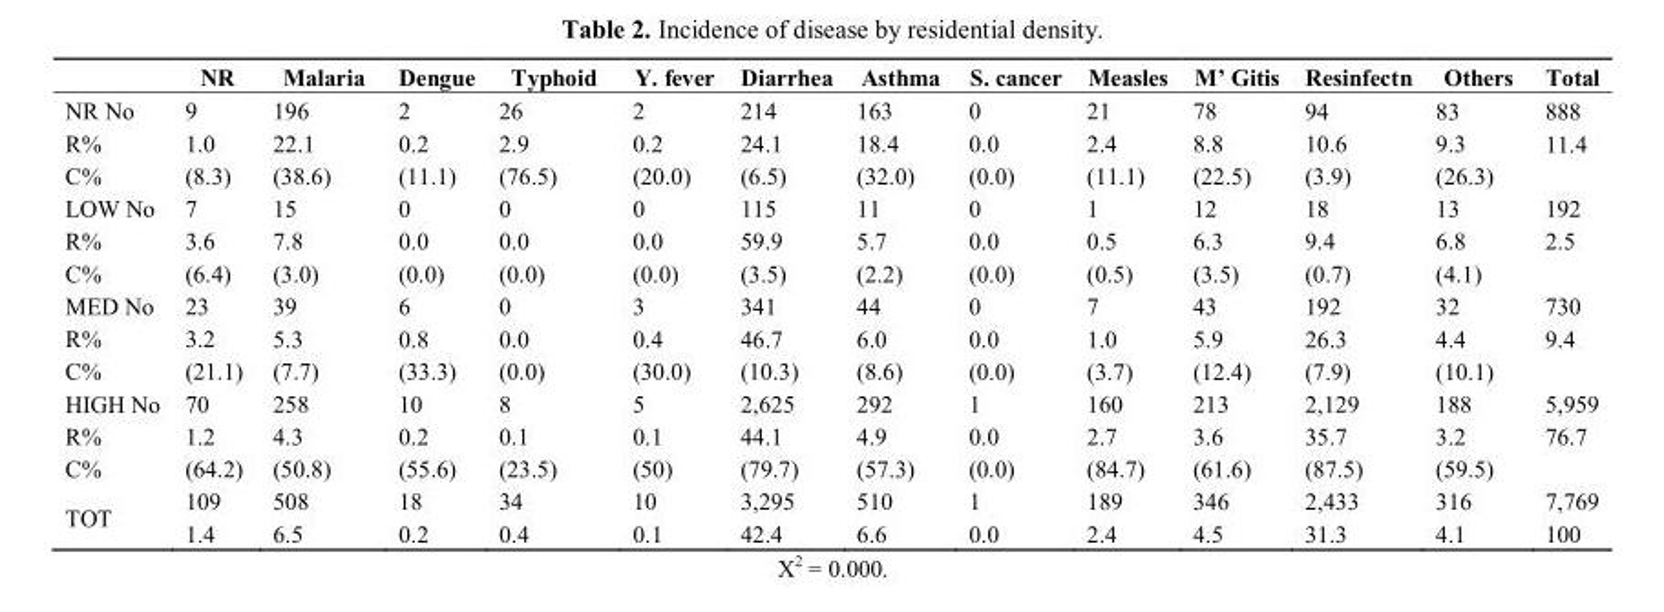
<table><thead><tr><td></td><td>NR</td><td>Malaria</td><td>Dengue</td><td>Typhoid</td><td>Y. fever</td><td>Diarrhea</td><td>Asthma</td><td>S. cancer</td><td>Measles</td><td>M’ Gitis</td><td>Resinfectn</td><td>Others</td><td>Total</td></tr></thead><tbody><tr><td>NR No</td><td>9</td><td>196</td><td>2</td><td>26</td><td>2</td><td>214</td><td>163</td><td>0</td><td>21</td><td>78</td><td>94</td><td>83</td><td>888</td></tr><tr><td>R%</td><td>1.0</td><td>22.1</td><td>0.2</td><td>2.9</td><td>0.2</td><td>24.1</td><td>18.4</td><td>0.0</td><td>2.4</td><td>8.8</td><td>10.6</td><td>9.3</td><td>11.4</td></tr><tr><td>C%</td><td>(8.3)</td><td>(38.6)</td><td>(11.1)</td><td>(76.5)</td><td>(20.0)</td><td>(6.5)</td><td>(32.0)</td><td>(0.0)</td><td>(11.1)</td><td>(22.5)</td><td>(3.9)</td><td>(26.3)</td><td></td></tr><tr><td>LOW No</td><td>7</td><td>15</td><td>0</td><td>0</td><td>0</td><td>115</td><td>11</td><td>0</td><td>1</td><td>12</td><td>18</td><td>13</td><td>192</td></tr><tr><td>R%</td><td>3.6</td><td>7.8</td><td>0.0</td><td>0.0</td><td>0.0</td><td>59.9</td><td>5.7</td><td>0.0</td><td>0.5</td><td>6.3</td><td>9.4</td><td>6.8</td><td>2.5</td></tr><tr><td>C%</td><td>(6.4)</td><td>(3.0)</td><td>(0.0)</td><td>(0.0)</td><td>(0.0)</td><td>(3.5)</td><td>(2.2)</td><td>(0.0)</td><td>(0.5)</td><td>(3.5)</td><td>(0.7)</td><td>(4.1)</td><td></td></tr><tr><td>MED No</td><td>23</td><td>39</td><td>6</td><td>0</td><td>3</td><td>341</td><td>44</td><td>0</td><td>7</td><td>43</td><td>192</td><td>32</td><td>730</td></tr><tr><td>R%</td><td>3.2</td><td>5.3</td><td>0.8</td><td>0.0</td><td>0.4</td><td>46.7</td><td>6.0</td><td>0.0</td><td>1.0</td><td>5.9</td><td>26.3</td><td>4.4</td><td>9.4</td></tr><tr><td>C%</td><td>(21.1)</td><td>(7.7)</td><td>(33.3)</td><td>(0.0)</td><td>(30.0)</td><td>(10.3)</td><td>(8.6)</td><td>(0.0)</td><td>(3.7)</td><td>(12.4)</td><td>(7.9)</td><td>(10.1)</td><td></td></tr><tr><td>HIGH No</td><td>70</td><td>258</td><td>10</td><td>8</td><td>5</td><td>2,625</td><td>292</td><td>1</td><td>160</td><td>213</td><td>2,129</td><td>188</td><td>5,959</td></tr><tr><td>R%</td><td>1.2</td><td>4.3</td><td>0.2</td><td>0.1</td><td>0.1</td><td>44.1</td><td>4.9</td><td>0.0</td><td>2.7</td><td>3.6</td><td>35.7</td><td>3.2</td><td>76.7</td></tr><tr><td>C%</td><td>(64.2)</td><td>(50.8)</td><td>(55.6)</td><td>(23.5)</td><td>(50)</td><td>(79.7)</td><td>(57.3)</td><td>(0.0)</td><td>(84.7)</td><td>(61.6)</td><td>(87.5)</td><td>(59.5)</td><td></td></tr><tr><td rowspan="2">TOT</td><td>109</td><td>508</td><td>18</td><td>34</td><td>10</td><td>3,295</td><td>510</td><td>1</td><td>189</td><td>346</td><td>2,433</td><td>316</td><td>7,769</td></tr><tr><td>1.4</td><td>6.5</td><td>0.2</td><td>0.4</td><td>0.1</td><td>42.4</td><td>6.6</td><td>0.0</td><td>2.4</td><td>4.5</td><td>31.3</td><td>4.1</td><td>100</td></tr></tbody></table>